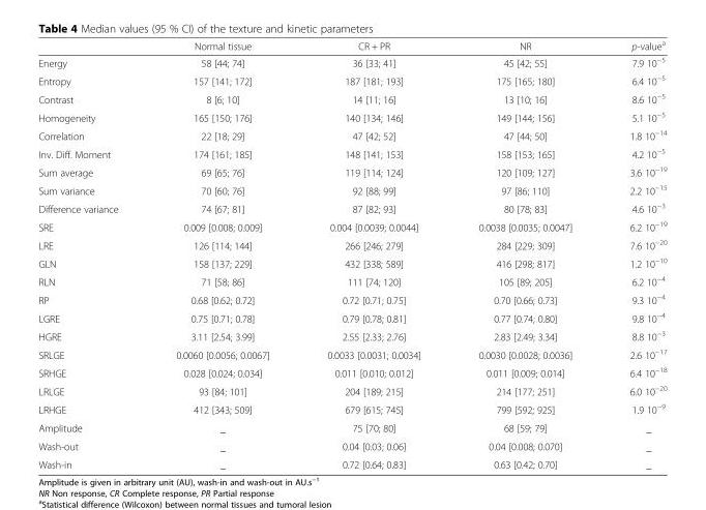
<table><thead><tr><td></td><td>Normal tissue</td><td>CR + PR</td><td>NR</td><td>p-value<sup>a</sup></td></tr></thead><tbody><tr><td>Energy</td><td>58 [44; 74]</td><td>36 [33; 41]</td><td>45 [42; 55]</td><td>7.9 10<sup>−5</sup></td></tr><tr><td>Entropy</td><td>157 [141; 172]</td><td>187 [181; 193]</td><td>175 [165; 180]</td><td>6.4 10<sup>−5</sup></td></tr><tr><td>Contrast</td><td>8 [6; 10]</td><td>14 [11; 16]</td><td>13 [10; 16]</td><td>8.6 10<sup>−5</sup></td></tr><tr><td>Homogeneity</td><td>165 [150; 176]</td><td>140 [134; 146]</td><td>149 [144; 156]</td><td>5.1 10<sup>−5</sup></td></tr><tr><td>Correlation</td><td>22 [18; 29]</td><td>47 [42; 52]</td><td>47 [44; 50]</td><td>1.8 10<sup>−14</sup></td></tr><tr><td>Inv. Diff. Moment</td><td>174 [161; 185]</td><td>148 [141; 153]</td><td>158 [153; 165]</td><td>4.2 10<sup>−5</sup></td></tr><tr><td>Sum average</td><td>69 [65; 76]</td><td>119 [114; 124]</td><td>120 [109; 127]</td><td>3.6 10<sup>−19</sup></td></tr><tr><td>Sum variance</td><td>70 [60; 76]</td><td>92 [88; 99]</td><td>97 [86; 110]</td><td>2.2 10<sup>−15</sup></td></tr><tr><td>Difference variance</td><td>74 [67; 81]</td><td>87 [82; 93]</td><td>80 [78; 83]</td><td>4.6 10<sup>−3</sup></td></tr><tr><td>SRE</td><td>0.009 [0.008; 0.009]</td><td>0.004 [0.0039; 0.0044]</td><td>0.0038 [0.0035; 0.0047]</td><td>6.2 10<sup>−19</sup></td></tr><tr><td>LRE</td><td>126 [114; 144]</td><td>266 [246; 279]</td><td>284 [229; 309]</td><td>7.6 10<sup>−20</sup></td></tr><tr><td>GLN</td><td>158 [137; 229]</td><td>432 [338; 589]</td><td>416 [298; 817]</td><td>1.2 10<sup>−10</sup></td></tr><tr><td>RLN</td><td>71 [58; 86]</td><td>111 [74; 120]</td><td>105 [89; 205]</td><td>6.2 10<sup>−4</sup></td></tr><tr><td>RP</td><td>0.68 [0.62; 0.72]</td><td>0.72 [0.71; 0.75]</td><td>0.70 [0.66; 0.73]</td><td>9.3 10<sup>−4</sup></td></tr><tr><td>LGRE</td><td>0.75 [0.71; 0.78]</td><td>0.79 [0.78; 0.81]</td><td>0.77 [0.74; 0.80]</td><td>9.8 10<sup>−4</sup></td></tr><tr><td>HGRE</td><td>3.11 [2.54; 3.99]</td><td>2.55 [2.33; 2.76]</td><td>2.83 [2.49; 3.34]</td><td>8.8 10<sup>−3</sup></td></tr><tr><td>SRLGE</td><td>0.0060 [0.0056; 0.0067]</td><td>0.0033 [0.0031; 0.0034]</td><td>0.0030 [0.0028; 0.0036]</td><td>2.6 10<sup>−17</sup></td></tr><tr><td>SRHGE</td><td>0.028 [0.024; 0.034]</td><td>0.011 [0.010; 0.012]</td><td>0.011 [0.009; 0.014]</td><td>6.4 10<sup>−18</sup></td></tr><tr><td>LRLGE</td><td>93 [84; 101]</td><td>204 [189; 215]</td><td>214 [177; 251]</td><td>6.0 10<sup>−20</sup></td></tr><tr><td>LRHGE</td><td>412 [343; 509]</td><td>679 [615; 745]</td><td>799 [592; 925]</td><td>1.9 10<sup>−9</sup></td></tr><tr><td>Amplitude</td><td>_</td><td>75 [70; 80]</td><td>68 [59; 79]</td><td>_</td></tr><tr><td>Wash-out</td><td>_</td><td>0.04 [0.03; 0.06]</td><td>0.04 [0.008; 0.070]</td><td>_</td></tr><tr><td>Wash-in</td><td>_</td><td>0.72 [0.64; 0.83]</td><td>0.63 [0.42; 0.70]</td><td>_</td></tr></tbody></table>